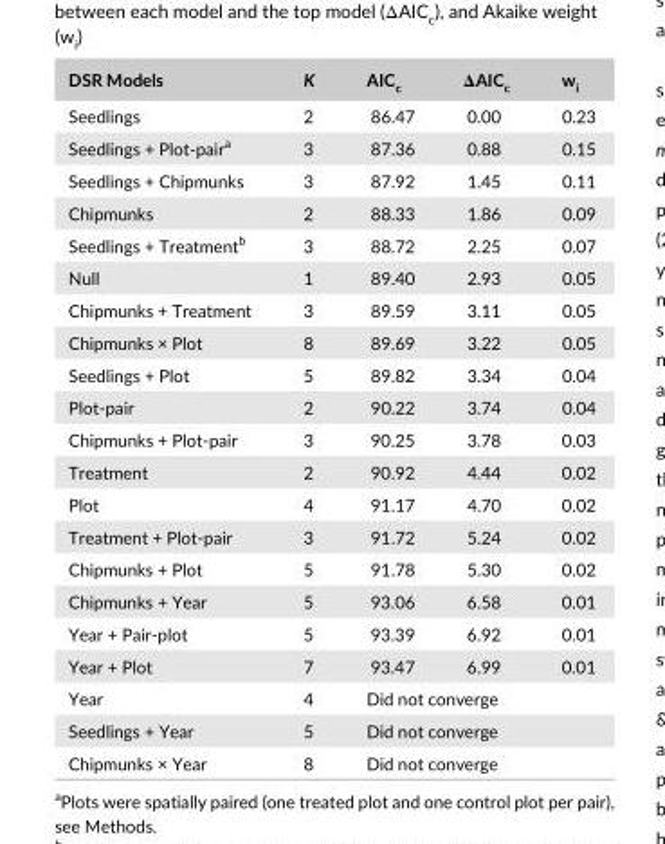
<table><thead><tr><td>DSR Models</td><td>K</td><td>AIC<sub>c</sub></td><td>ΔAIC<sub>c</sub></td><td>w<sub>i</sub></td></tr></thead><tbody><tr><td>Seedlings</td><td>2</td><td>86.47</td><td>0.00</td><td>0.23</td></tr><tr><td>Seedlings + Plot- pair<sup>a</sup></td><td>3</td><td>87.36</td><td>0.88</td><td>0.15</td></tr><tr><td>Seedlings + Chipmunks</td><td>3</td><td>87.92</td><td>1.45</td><td>0.11</td></tr><tr><td>Chipmunks</td><td>2</td><td>88.33</td><td>1.86</td><td>0.09</td></tr><tr><td>Seedlings + Treatment<sup>b</sup></td><td>3</td><td>88.72</td><td>2.25</td><td>0.07</td></tr><tr><td>Null</td><td>1</td><td>89.40</td><td>2.93</td><td>0.05</td></tr><tr><td>Chipmunks + Treatment</td><td>3</td><td>89.59</td><td>3.11</td><td>0.05</td></tr><tr><td>Chipmunks × Plot</td><td>8</td><td>89.69</td><td>3.22</td><td>0.05</td></tr><tr><td>Seedlings + Plot</td><td>5</td><td>89.82</td><td>3.34</td><td>0.04</td></tr><tr><td>Plot- pair</td><td>2</td><td>90.22</td><td>3.74</td><td>0.04</td></tr><tr><td>Chipmunks + Plot- pair</td><td>3</td><td>90.25</td><td>3.78</td><td>0.03</td></tr><tr><td>Treatment</td><td>2</td><td>90.92</td><td>4.44</td><td>0.02</td></tr><tr><td>Plot</td><td>4</td><td>91.17</td><td>4.70</td><td>0.02</td></tr><tr><td>Treatment + Plot- pair</td><td>3</td><td>91.72</td><td>5.24</td><td>0.02</td></tr><tr><td>Chipmunks + Plot</td><td>5</td><td>91.78</td><td>5.30</td><td>0.02</td></tr><tr><td>Chipmunks + Year</td><td>5</td><td>93.06</td><td>6.58</td><td>0.01</td></tr><tr><td>Year + Pair- plot</td><td>5</td><td>93.39</td><td>6.92</td><td>0.01</td></tr><tr><td>Year + Plot</td><td>7</td><td>93.47</td><td>6.99</td><td>0.01</td></tr><tr><td>Year</td><td>4</td><td colspan="3">Did not converge</td></tr><tr><td>Seedlings + Year</td><td>5</td><td colspan="3">Did not converge</td></tr><tr><td>Chipmunks × Year</td><td>8</td><td colspan="3">Did not converge</td></tr></tbody></table>